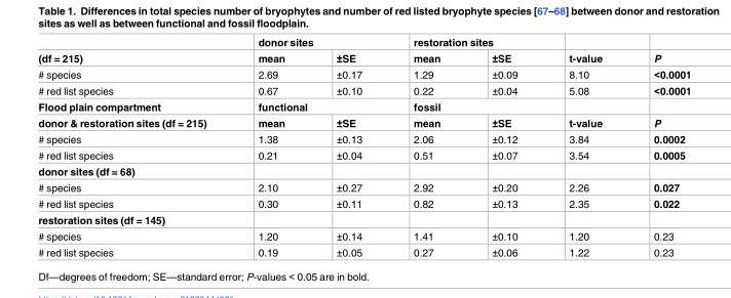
<table><thead><tr><td rowspan="2">(df = 215)</td><td colspan="2">donor sites</td><td colspan="2">restoration sites</td><td rowspan="2">t-value</td><td rowspan="2">P</td></tr><tr><td>mean</td><td>±SE</td><td>mean</td><td>±SE</td></tr></thead><tbody><tr><td># species</td><td>2.69</td><td>±0.17</td><td>1.29</td><td>±0.09</td><td>8.10</td><td>&lt;0.0001</td></tr><tr><td># red list species</td><td>0.67</td><td>±0.10</td><td>0.22</td><td>±0.04</td><td>5.08</td><td>&lt;0.0001</td></tr><tr><td>Flood plain compartment</td><td colspan="2">functional</td><td colspan="2">fossil</td><td></td><td></td></tr><tr><td>donor &amp; restoration sites (df = 215)</td><td>mean</td><td>±SE</td><td>mean</td><td>±SE</td><td>t-value</td><td>P</td></tr><tr><td># species</td><td>1.38</td><td>±0.13</td><td>2.06</td><td>±0.12</td><td>3.84</td><td>0.0002</td></tr><tr><td># red list species</td><td>0.21</td><td>±0.04</td><td>0.51</td><td>±0.07</td><td>3.54</td><td>0.0005</td></tr><tr><td colspan="7">donor sites (df = 68)</td></tr><tr><td># species</td><td>2.10</td><td>±0.27</td><td>2.92</td><td>±0.20</td><td>2.26</td><td>0.027</td></tr><tr><td># red list species</td><td>0.30</td><td>±0.11</td><td>0.82</td><td>±0.13</td><td>2.35</td><td>0.022</td></tr><tr><td colspan="7">restoration sites (df = 145)</td></tr><tr><td># species</td><td>1.20</td><td>±0.14</td><td>1.41</td><td>±0.10</td><td>1.20</td><td>0.23</td></tr><tr><td># red list species</td><td>0.19</td><td>±0.05</td><td>0.27</td><td>±0.06</td><td>1.22</td><td>0.23</td></tr></tbody></table>